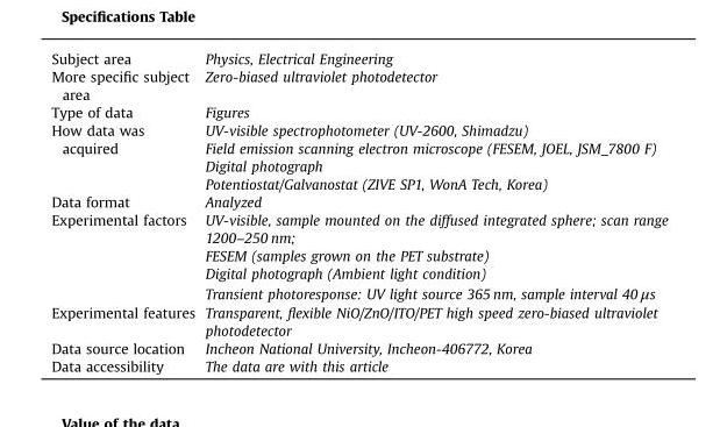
<table><tbody><tr><td>Subject area</td><td>Physics, Electrical Engineering</td></tr><tr><td>More specific subject area</td><td>Zero-biased ultraviolet photodetector</td></tr><tr><td>Type of data</td><td>Figures</td></tr><tr><td rowspan="4">How data was acquired</td><td>UV-visible spectrophotometer (UV-2600, Shimadzu)</td></tr><tr><td>Field emission scanning electron microscope (FESEM, JOEL, JSM_7800 F)</td></tr><tr><td>Digital photograph</td></tr><tr><td>Potentiostat/Galvanostat (ZIVE SP1, WonA Tech, Korea)</td></tr><tr><td>Data format</td><td>Analyzed</td></tr><tr><td rowspan="4">Experimental factors</td><td>UV-visible, sample mounted on the diffused integrated sphere; scan range 1200–250 nm;</td></tr><tr><td>FESEM (samples grown on the PET substrate)</td></tr><tr><td>Digital photograph (Ambient light condition)</td></tr><tr><td>Transient photoresponse: UV light source 365 nm, sample interval 40 μs</td></tr><tr><td>Experimental features</td><td>Transparent, flexible NiO/ZnO/ITO/PET high speed zero-biased ultraviolet photodetector</td></tr><tr><td>Data source location</td><td>Incheon National University, Incheon-406772, Korea</td></tr><tr><td>Data accessibility</td><td>The data are with this article</td></tr></tbody></table>